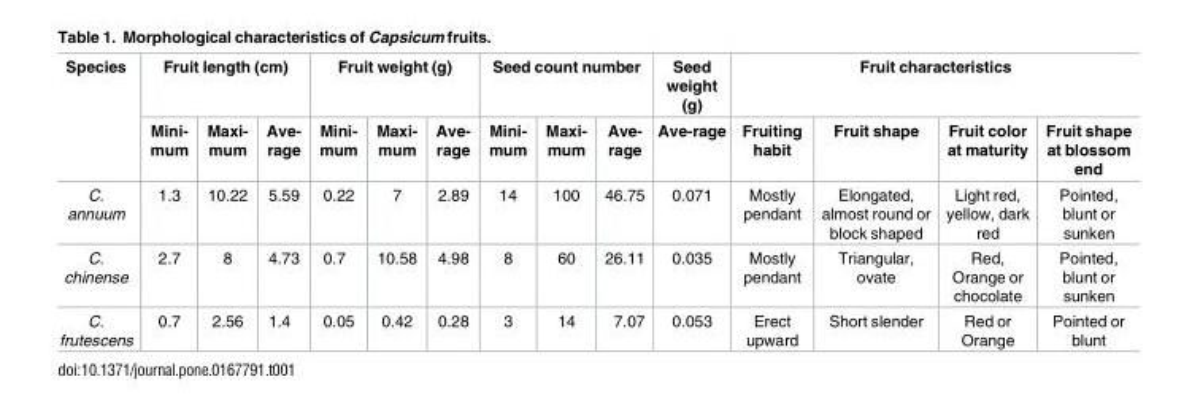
<table><thead><tr><td rowspan="2">Species</td><td colspan="3">Fruit length (cm)</td><td colspan="3">Fruit weight (g)</td><td colspan="3">Seed count number</td><td rowspan="2">Seed weight (g) Ave-rage</td><td colspan="4">Fruit characteristics</td></tr><tr><td>Mini- mum</td><td>Maxi- mum</td><td>Ave- rage</td><td>Mini- mum</td><td>Maxi- mum</td><td>Ave- rage</td><td>Mini- mum</td><td>Maxi- mum</td><td>Ave- rage</td><td>Fruiting habit</td><td>Fruit shape</td><td>Fruit color at maturity</td><td>Fruit shape at blossom end</td></tr></thead><tbody><tr><td>C. annuum</td><td>1.3</td><td>10.22</td><td>5.59</td><td>0.22</td><td>7</td><td>2.89</td><td>14</td><td>100</td><td>46.75</td><td>0.071</td><td>Mostly pendant</td><td>Elongated, almost round or block shaped</td><td>Light red, yellow, dark red</td><td>Pointed, blunt or sunken</td></tr><tr><td>C. chinense</td><td>2.7</td><td>8</td><td>4.73</td><td>0.7</td><td>10.58</td><td>4.98</td><td>8</td><td>60</td><td>26.11</td><td>0.035</td><td>Mostly pendant</td><td>Triangular, ovate</td><td>Red, Orange or chocolate</td><td>Pointed, blunt or sunken</td></tr><tr><td>C. frutescens</td><td>0.7</td><td>2.56</td><td>1.4</td><td>0.05</td><td>0.42</td><td>0.28</td><td>3</td><td>14</td><td>7.07</td><td>0.053</td><td>Erect upward</td><td>Short slender</td><td>Red or Orange</td><td>Pointed or blunt</td></tr></tbody></table>